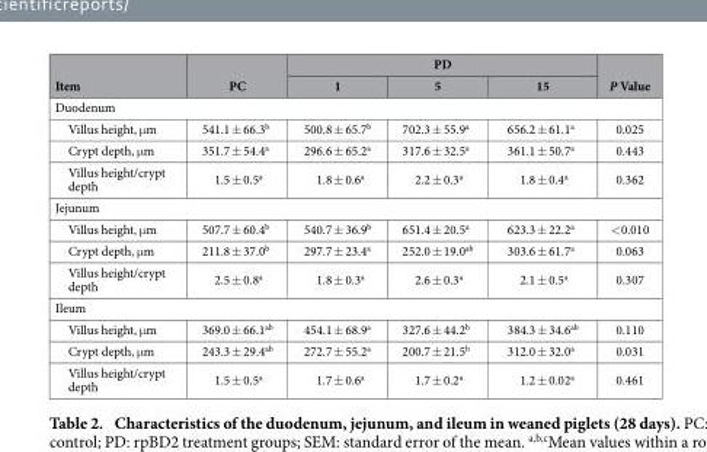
<table><thead><tr><td rowspan="2">Item</td><td rowspan="2">PC</td><td colspan="3">PD</td><td rowspan="2">P Value</td></tr><tr><td>1</td><td>5</td><td>15</td></tr></thead><tbody><tr><td colspan="6">Duodenum</td></tr><tr><td>Villus height, μ m</td><td>541.1 ± 66.3<sup>b</sup></td><td>500.8 ± 65.7<sup>b</sup></td><td>702.3 ± 55.9<sup>a</sup></td><td>656.2 ± 61.1<sup>a</sup></td><td>0.025</td></tr><tr><td>Crypt depth, μ m</td><td>351.7 ± 54.4<sup>a</sup></td><td>296.6 ± 65.2<sup>a</sup></td><td>317.6 ± 32.5<sup>a</sup></td><td>361.1 ± 50.7<sup>a</sup></td><td>0.443</td></tr><tr><td>Villus height/crypt depth</td><td>1.5 ± 0.5<sup>a</sup></td><td>1.8 ± 0.6<sup>a</sup></td><td>2.2 ± 0.3<sup>a</sup></td><td>1.8 ± 0.4<sup>a</sup></td><td>0.362</td></tr><tr><td colspan="6">Jejunum</td></tr><tr><td>Villus height, μ m</td><td>507.7 ± 60.4<sup>b</sup></td><td>540.7 ± 36.9<sup>b</sup></td><td>651.4 ± 20.5<sup>a</sup></td><td>623.3 ± 22.2<sup>a</sup></td><td>&lt; 0.010</td></tr><tr><td>Crypt depth, μ m</td><td>211.8 ± 37.0<sup>b</sup></td><td>297.7 ± 23.4<sup>a</sup></td><td>252.0 ± 19.0<sup>ab</sup></td><td>303.6 ± 61.7<sup>a</sup></td><td>0.063</td></tr><tr><td>Villus height/crypt depth</td><td>2.5 ± 0.8<sup>a</sup></td><td>1.8 ± 0.3<sup>a</sup></td><td>2.6 ± 0.3<sup>a</sup></td><td>2.1 ± 0.5<sup>a</sup></td><td>0.307</td></tr><tr><td colspan="6">Ileum</td></tr><tr><td>Villus height, μ m</td><td>369.0 ± 66.1<sup>ab</sup></td><td>454.1 ± 68.9<sup>a</sup></td><td>327.6 ± 44.2<sup>b</sup></td><td>384.3 ± 34.6<sup>ab</sup></td><td>0.110</td></tr><tr><td>Crypt depth, μ m</td><td>243.3 ± 29.4<sup>ab</sup></td><td>272.7 ± 55.2<sup>a</sup></td><td>200.7 ± 21.5<sup>b</sup></td><td>312.0 ± 32.0<sup>a</sup></td><td>0.031</td></tr><tr><td>Villus height/crypt depth</td><td>1.5 ± 0.5<sup>a</sup></td><td>1.7 ± 0.6<sup>a</sup></td><td>1.7 ± 0.2<sup>a</sup></td><td>1.2 ± 0.02<sup>a</sup></td><td>0.461</td></tr></tbody></table>